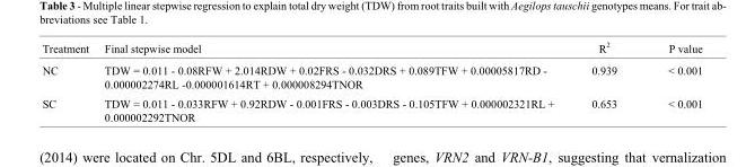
<table><thead><tr><td>Treatment</td><td>Final stepwise model</td><td>R<sup>2</sup></td><td>P value</td></tr></thead><tbody><tr><td>NC</td><td>TDW = 0.011 - 0.08RFW + 2.014RDW + 0.02FRS - 0.032DRS + 0.089TFW + 0.00005817RD - 0.000002274RL -0.000001614RT + 0.000008294TNOR</td><td>0.939</td><td>&lt; 0.001</td></tr><tr><td>SC</td><td>TDW = 0.011 - 0.033RFW + 0.92RDW - 0.001FRS - 0.003DRS - 0.105TFW + 0.000002321RL + 0.000002292TNOR</td><td>0.653</td><td>&lt; 0.001</td></tr></tbody></table>